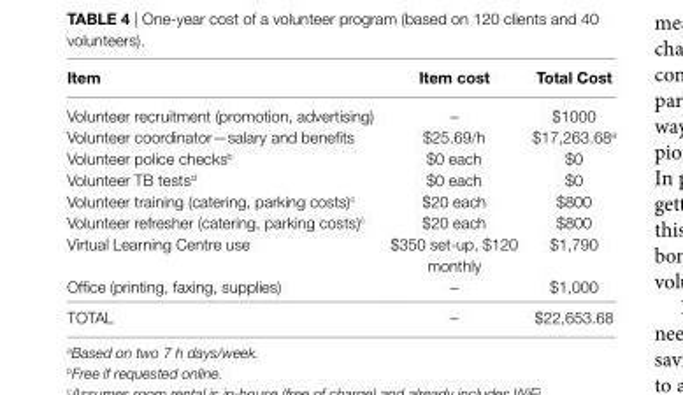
<table><thead><tr><td>item</td><td>item cost</td><td>total Cost</td></tr></thead><tbody><tr><td>Volunteer recruitment (promotion, advertising)</td><td>–</td><td>$1000</td></tr><tr><td>Volunteer coordinator—salary and benefits</td><td>$25.69/h</td><td>$17,263.68<sup>a</sup></td></tr><tr><td>Volunteer police checks<sup>b</sup></td><td>$0 each</td><td>$0</td></tr><tr><td>Volunteer TB tests<sup>d</sup></td><td>$0 each</td><td>$0</td></tr><tr><td>Volunteer training (catering, parking costs)<sup>c</sup></td><td>$20 each</td><td>$800</td></tr><tr><td>Volunteer refresher (catering, parking costs)<sup>c</sup></td><td>$20 each</td><td>$800</td></tr><tr><td>Virtual Learning Centre use</td><td>$350 set-up, $120 monthly</td><td>$1,790</td></tr><tr><td>Office (printing, faxing, supplies)</td><td>–</td><td>$1,000</td></tr><tr><td>TOTAL</td><td>–</td><td>$22,653.68</td></tr></tbody></table>